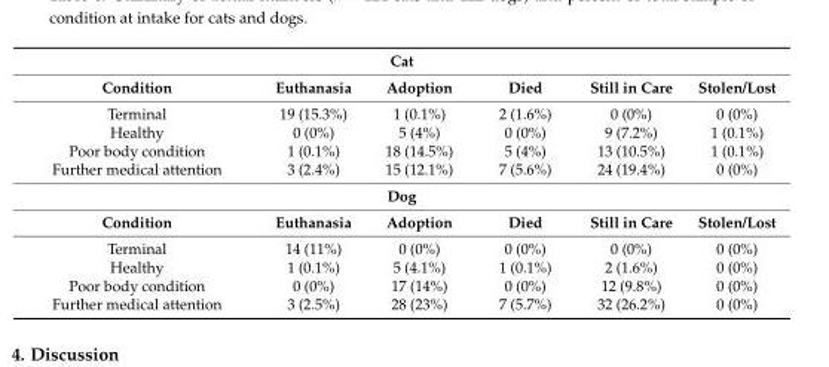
<table><thead><tr><td colspan="6">Cat</td></tr><tr><td>Condition</td><td>Euthanasia</td><td>Adoption</td><td>Died</td><td>Still in Care</td><td>Stolen/Lost</td></tr></thead><tbody><tr><td>Terminal</td><td>19 (15.3%)</td><td>1 (0.1%)</td><td>2 (1.6%)</td><td>0 (0%)</td><td>0 (0%)</td></tr><tr><td>Healthy</td><td>0 (0%)</td><td>5 (4%)</td><td>0 (0%)</td><td>9 (7.2%)</td><td>1 (0.1%)</td></tr><tr><td>Poor body condition</td><td>1 (0.1%)</td><td>18 (14.5%)</td><td>5 (4%)</td><td>13 (10.5%)</td><td>1 (0.1%)</td></tr><tr><td>Further medical attention</td><td>3 (2.4%)</td><td>15 (12.1%)</td><td>7 (5.6%)</td><td>24 (19.4%)</td><td>0 (0%)</td></tr><tr><td colspan="6">Dog</td></tr><tr><td>Condition</td><td>Euthanasia</td><td>Adoption</td><td>Died</td><td>Still in Care</td><td>Stolen/Lost</td></tr><tr><td>Terminal</td><td>14 (11%)</td><td>0 (0%)</td><td>0 (0%)</td><td>0 (0%)</td><td>0 (0%)</td></tr><tr><td>Healthy</td><td>1 (0.1%)</td><td>5 (4.1%)</td><td>1 (0.1%)</td><td>2 (1.6%)</td><td>0 (0%)</td></tr><tr><td>Poor body condition</td><td>0 (0%)</td><td>17 (14%)</td><td>0 (0%)</td><td>12 (9.8%)</td><td>0 (0%)</td></tr><tr><td>Further medical attention</td><td>3 (2.5%)</td><td>28 (23%)</td><td>7 (5.7%)</td><td>32 (26.2%)</td><td>0 (0%)</td></tr></tbody></table>